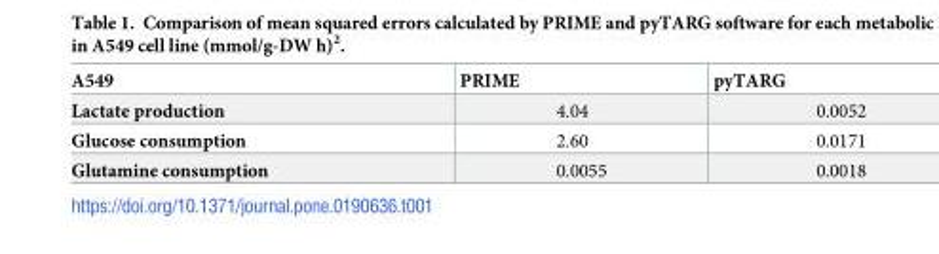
<table><thead><tr><td>A549</td><td>PRIME</td><td>pyTARG</td></tr></thead><tbody><tr><td>Lactate production</td><td>4.04</td><td>0.0052</td></tr><tr><td>Glucose consumption</td><td>2.60</td><td>0.0171</td></tr><tr><td>Glutamine consumption</td><td>0.0055</td><td>0.0018</td></tr></tbody></table>